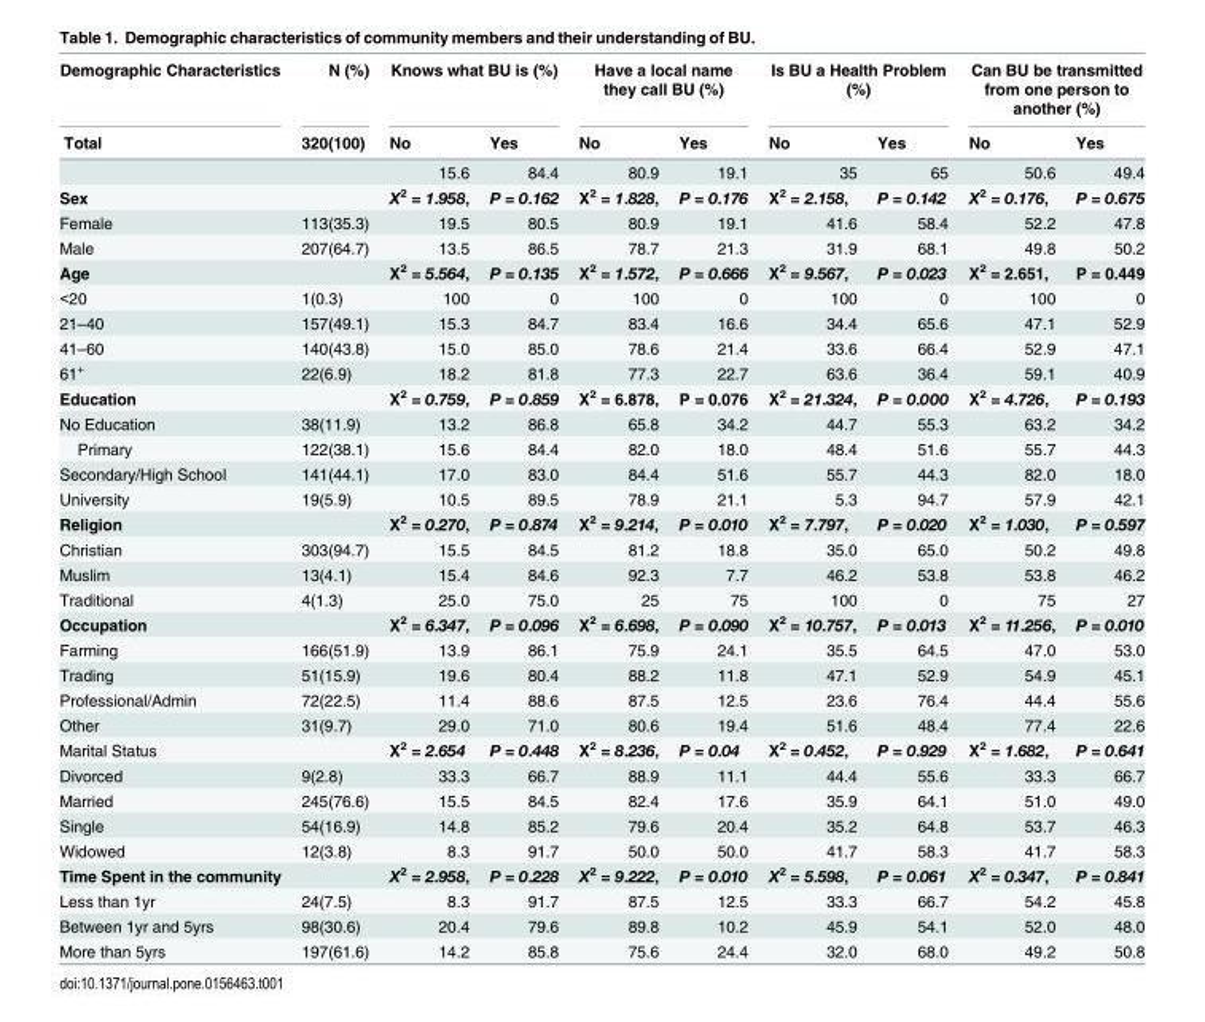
<table><thead><tr><td rowspan="2">Demographic Characteristics Total</td><td rowspan="2">N (%) 320(100)</td><td colspan="2">Knows what BU is (%)</td><td colspan="2">Have a local name they call BU (%)</td><td colspan="2">Is BU a Health Problem (%)</td><td colspan="2">Can BU be transmitted from one person to another (%)</td></tr><tr><td>No</td><td>Yes</td><td>No</td><td>Yes</td><td>No</td><td>Yes</td><td>No</td><td>Yes</td></tr></thead><tbody><tr><td></td><td></td><td>15.6</td><td>84.4</td><td>80.9</td><td>19.1</td><td>35</td><td>65</td><td>50.6</td><td>49.4</td></tr><tr><td>Sex</td><td></td><td>X<sup>2</sup> = 1.958,</td><td>P = 0.162</td><td>X<sup>2</sup> = 1.828,</td><td>P = 0.176</td><td>X<sup>2</sup> = 2.158,</td><td>P = 0.142</td><td>X<sup>2</sup> = 0.176,</td><td>P = 0.675</td></tr><tr><td>Female</td><td>113(35.3)</td><td>19.5</td><td>80.5</td><td>80.9</td><td>19.1</td><td>41.6</td><td>58.4</td><td>52.2</td><td>47.8</td></tr><tr><td>Male</td><td>207(64.7)</td><td>13.5</td><td>86.5</td><td>78.7</td><td>21.3</td><td>31.9</td><td>68.1</td><td>49.8</td><td>50.2</td></tr><tr><td>Age</td><td></td><td>X<sup>2</sup> = 5.564,</td><td>P = 0.135</td><td>X<sup>2</sup> = 1.572,</td><td>P = 0.666</td><td>X<sup>2</sup> = 9.567,</td><td>P = 0.023</td><td>X<sup>2</sup> = 2.651,</td><td>P = 0.449</td></tr><tr><td>&lt;20</td><td>1(0.3)</td><td>100</td><td>0</td><td>100</td><td>0</td><td>100</td><td>0</td><td>100</td><td>0</td></tr><tr><td>21–40</td><td>157(49.1)</td><td>15.3</td><td>84.7</td><td>83.4</td><td>16.6</td><td>34.4</td><td>65.6</td><td>47.1</td><td>52.9</td></tr><tr><td>41–60</td><td>140(43.8)</td><td>15.0</td><td>85.0</td><td>78.6</td><td>21.4</td><td>33.6</td><td>66.4</td><td>52.9</td><td>47.1</td></tr><tr><td>61<sup>+</sup></td><td>22(6.9)</td><td>18.2</td><td>81.8</td><td>77.3</td><td>22.7</td><td>63.6</td><td>36.4</td><td>59.1</td><td>40.9</td></tr><tr><td>Education</td><td></td><td>X<sup>2</sup> = 0.759,</td><td>P = 0.859</td><td>X<sup>2</sup> = 6.878,</td><td>P = 0.076</td><td>X<sup>2</sup> = 21.324,</td><td>P = 0.000</td><td>X<sup>2</sup> = 4.726,</td><td>P = 0.193</td></tr><tr><td>No Education</td><td>38(11.9)</td><td>13.2</td><td>86.8</td><td>65.8</td><td>34.2</td><td>44.7</td><td>55.3</td><td>63.2</td><td>34.2</td></tr><tr><td>Primary</td><td>122(38.1)</td><td>15.6</td><td>84.4</td><td>82.0</td><td>18.0</td><td>48.4</td><td>51.6</td><td>55.7</td><td>44.3</td></tr><tr><td>Secondary/High School</td><td>141(44.1)</td><td>17.0</td><td>83.0</td><td>84.4</td><td>51.6</td><td>55.7</td><td>44.3</td><td>82.0</td><td>18.0</td></tr><tr><td>University</td><td>19(5.9)</td><td>10.5</td><td>89.5</td><td>78.9</td><td>21.1</td><td>5.3</td><td>94.7</td><td>57.9</td><td>42.1</td></tr><tr><td>Religion</td><td></td><td>X<sup>2</sup> = 0.270,</td><td>P = 0.874</td><td>X<sup>2</sup> = 9.214,</td><td>P = 0.010</td><td>X<sup>2</sup> = 7.797,</td><td>P = 0.020</td><td>X<sup>2</sup> = 1.030,</td><td>P = 0.597</td></tr><tr><td>Christian</td><td>303(94.7)</td><td>15.5</td><td>84.5</td><td>81.2</td><td>18.8</td><td>35.0</td><td>65.0</td><td>50.2</td><td>49.8</td></tr><tr><td>Muslim</td><td>13(4.1)</td><td>15.4</td><td>84.6</td><td>92.3</td><td>7.7</td><td>46.2</td><td>53.8</td><td>53.8</td><td>46.2</td></tr><tr><td>Traditional</td><td>4(1.3)</td><td>25.0</td><td>75.0</td><td>25</td><td>75</td><td>100</td><td>0</td><td>75</td><td>27</td></tr><tr><td>Occupation</td><td></td><td>X<sup>2</sup> = 6.347,</td><td>P = 0.096</td><td>X<sup>2</sup> = 6.698,</td><td>P = 0.090</td><td>X<sup>2</sup> = 10.757,</td><td>P = 0.013</td><td>X<sup>2</sup> = 11.256,</td><td>P = 0.010</td></tr><tr><td>Farming</td><td>166(51.9)</td><td>13.9</td><td>86.1</td><td>75.9</td><td>24.1</td><td>35.5</td><td>64.5</td><td>47.0</td><td>53.0</td></tr><tr><td>Trading</td><td>51(15.9)</td><td>19.6</td><td>80.4</td><td>88.2</td><td>11.8</td><td>47.1</td><td>52.9</td><td>54.9</td><td>45.1</td></tr><tr><td>Professional/Admin</td><td>72(22.5)</td><td>11.4</td><td>88.6</td><td>87.5</td><td>12.5</td><td>23.6</td><td>76.4</td><td>44.4</td><td>55.6</td></tr><tr><td>Other</td><td>31(9.7)</td><td>29.0</td><td>71.0</td><td>80.6</td><td>19.4</td><td>51.6</td><td>48.4</td><td>77.4</td><td>22.6</td></tr><tr><td>Marital Status</td><td></td><td>X<sup>2</sup> = 2.654</td><td>P = 0.448</td><td>X<sup>2</sup> = 8.236,</td><td>P = 0.04</td><td>X<sup>2</sup> = 0.452,</td><td>P = 0.929</td><td>X<sup>2</sup> = 1.682,</td><td>P = 0.641</td></tr><tr><td>Divorced</td><td>9(2.8)</td><td>33.3</td><td>66.7</td><td>88.9</td><td>11.1</td><td>44.4</td><td>55.6</td><td>33.3</td><td>66.7</td></tr><tr><td>Married</td><td>245(76.6)</td><td>15.5</td><td>84.5</td><td>82.4</td><td>17.6</td><td>35.9</td><td>64.1</td><td>51.0</td><td>49.0</td></tr><tr><td>Single</td><td>54(16.9)</td><td>14.8</td><td>85.2</td><td>79.6</td><td>20.4</td><td>35.2</td><td>64.8</td><td>53.7</td><td>46.3</td></tr><tr><td>Widowed</td><td>12(3.8)</td><td>8.3</td><td>91.7</td><td>50.0</td><td>50.0</td><td>41.7</td><td>58.3</td><td>41.7</td><td>58.3</td></tr><tr><td>Time Spent in the community</td><td></td><td>X<sup>2</sup> = 2.958,</td><td>P = 0.228</td><td>X<sup>2</sup> = 9.222,</td><td>P = 0.010</td><td>X<sup>2</sup> = 5.598,</td><td>P = 0.061</td><td>X<sup>2</sup> = 0.347,</td><td>P = 0.841</td></tr><tr><td>Less than 1yr</td><td>24(7.5)</td><td>8.3</td><td>91.7</td><td>87.5</td><td>12.5</td><td>33.3</td><td>66.7</td><td>54.2</td><td>45.8</td></tr><tr><td>Between 1yr and 5yrs</td><td>98(30.6)</td><td>20.4</td><td>79.6</td><td>89.8</td><td>10.2</td><td>45.9</td><td>54.1</td><td>52.0</td><td>48.0</td></tr><tr><td>More than 5yrs</td><td>197(61.6)</td><td>14.2</td><td>85.8</td><td>75.6</td><td>24.4</td><td>32.0</td><td>68.0</td><td>49.2</td><td>50.8</td></tr></tbody></table>